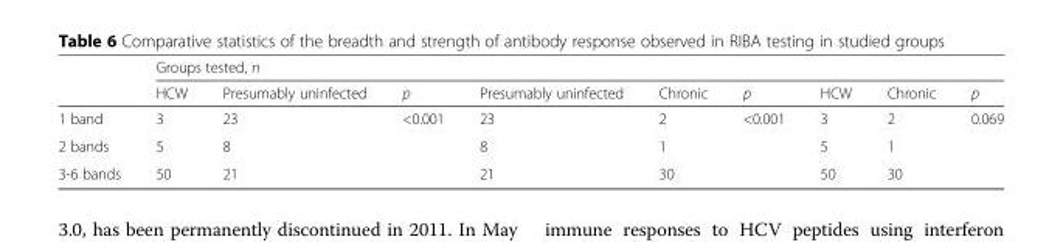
<table><thead><tr><td rowspan="2"></td><td colspan="9">Groups tested, n</td></tr><tr><td>HCW</td><td>Presumably uninfected</td><td>p</td><td>Presumably uninfected</td><td>Chronic</td><td>p</td><td>HCW</td><td>Chronic</td><td>p</td></tr></thead><tbody><tr><td>1 band</td><td>3</td><td>23</td><td rowspan="3">&lt;0.001</td><td>23</td><td>2</td><td rowspan="3">&lt;0.001</td><td>3</td><td>2</td><td rowspan="3">0.069</td></tr><tr><td>2 bands</td><td>5</td><td>8</td><td>8</td><td>1</td><td>5</td><td>1</td></tr><tr><td>3-6 bands</td><td>50</td><td>21</td><td>21</td><td>30</td><td>50</td><td>30</td></tr></tbody></table>